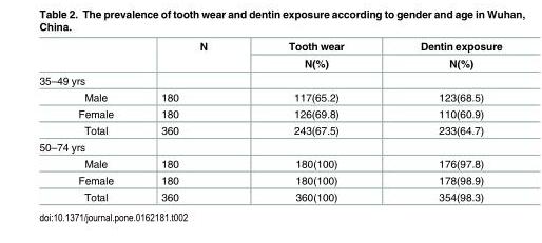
<table><thead><tr><td rowspan="2"></td><td rowspan="2">N</td><td rowspan="2">Tooth wear N(%)</td><td rowspan="2">Dentin exposure N(%)</td></tr><tr></tr></thead><tbody><tr><td colspan="4">35–49 yrs</td></tr><tr><td>Male</td><td>180</td><td>117(65.2)</td><td>123(68.5)</td></tr><tr><td>Female</td><td>180</td><td>126(69.8)</td><td>110(60.9)</td></tr><tr><td>Total</td><td>360</td><td>243(67.5)</td><td>233(64.7)</td></tr><tr><td colspan="4">50–74 yrs</td></tr><tr><td>Male</td><td>180</td><td>180(100)</td><td>176(97.8)</td></tr><tr><td>Female</td><td>180</td><td>180(100)</td><td>178(98.9)</td></tr><tr><td>Total</td><td>360</td><td>360(100)</td><td>354(98.3)</td></tr></tbody></table>